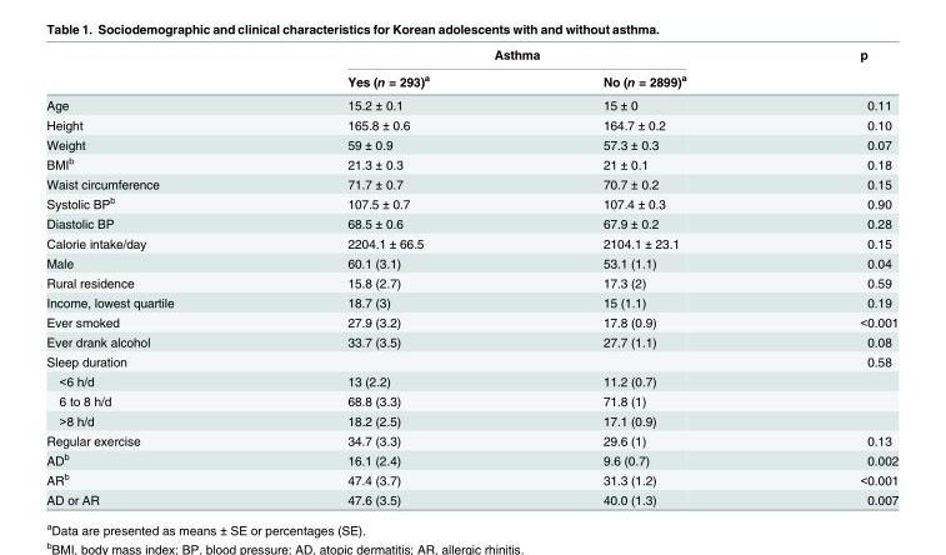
<table><thead><tr><td rowspan="2"></td><td colspan="2">Asthma</td><td rowspan="2">p</td></tr><tr><td>Yes (n = 293)<sup>a</sup></td><td>No (n = 2899)<sup>a</sup></td></tr></thead><tbody><tr><td>Age</td><td>15.2 ± 0.1</td><td>15 ± 0</td><td>0.11</td></tr><tr><td>Height</td><td>165.8 ± 0.6</td><td>164.7 ± 0.2</td><td>0.10</td></tr><tr><td>Weight</td><td>59 ± 0.9</td><td>57.3 ± 0.3</td><td>0.07</td></tr><tr><td>BMI<sup>b</sup></td><td>21.3 ± 0.3</td><td>21 ± 0.1</td><td>0.18</td></tr><tr><td>Waist circumference</td><td>71.7 ± 0.7</td><td>70.7 ± 0.2</td><td>0.15</td></tr><tr><td>Systolic BP<sup>b</sup></td><td>107.5 ± 0.7</td><td>107.4 ± 0.3</td><td>0.90</td></tr><tr><td>Diastolic BP</td><td>68.5 ± 0.6</td><td>67.9 ± 0.2</td><td>0.28</td></tr><tr><td>Calorie intake/day</td><td>2204.1 ± 66.5</td><td>2104.1 ± 23.1</td><td>0.15</td></tr><tr><td>Male</td><td>60.1 (3.1)</td><td>53.1 (1.1)</td><td>0.04</td></tr><tr><td>Rural residence</td><td>15.8 (2.7)</td><td>17.3 (2)</td><td>0.59</td></tr><tr><td>Income, lowest quartile</td><td>18.7 (3)</td><td>15 (1.1)</td><td>0.19</td></tr><tr><td>Ever smoked</td><td>27.9 (3.2)</td><td>17.8 (0.9)</td><td>&lt;0.001</td></tr><tr><td>Ever drank alcohol</td><td>33.7 (3.5)</td><td>27.7 (1.1)</td><td>0.08</td></tr><tr><td>Sleep duration</td><td></td><td></td><td>0.58</td></tr><tr><td>&lt;6 h/d</td><td>13 (2.2)</td><td>11.2 (0.7)</td><td></td></tr><tr><td>6 to 8 h/d</td><td>68.8 (3.3)</td><td>71.8 (1)</td><td></td></tr><tr><td>&gt;8 h/d</td><td>18.2 (2.5)</td><td>17.1 (0.9)</td><td></td></tr><tr><td>Regular exercise</td><td>34.7 (3.3)</td><td>29.6 (1)</td><td>0.13</td></tr><tr><td>AD<sup>b</sup></td><td>16.1 (2.4)</td><td>9.6 (0.7)</td><td>0.002</td></tr><tr><td>AR<sup>b</sup></td><td>47.4 (3.7)</td><td>31.3 (1.2)</td><td>&lt;0.001</td></tr><tr><td>AD or AR</td><td>47.6 (3.5)</td><td>40.0 (1.3)</td><td>0.007</td></tr></tbody></table>